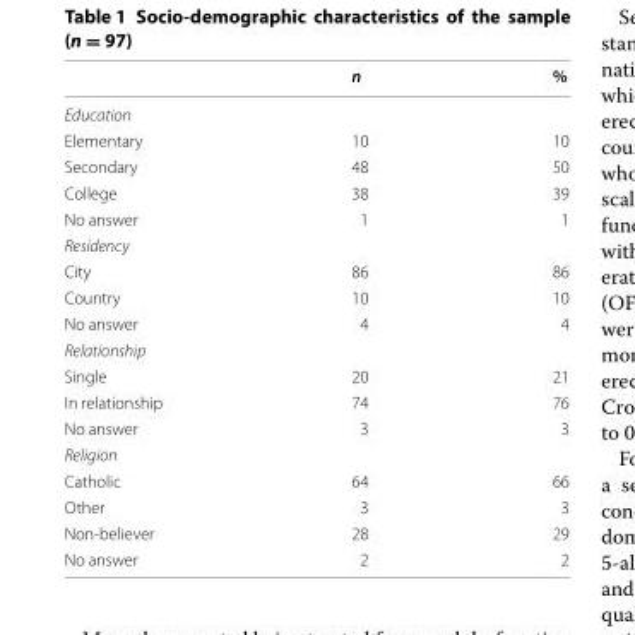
<table><thead><tr><td></td><td>n</td><td>%</td></tr></thead><tbody><tr><td colspan="3">Education</td></tr><tr><td>Elementary</td><td>10</td><td>10</td></tr><tr><td>Secondary</td><td>48</td><td>50</td></tr><tr><td>College</td><td>38</td><td>39</td></tr><tr><td>No answer</td><td>1</td><td>1</td></tr><tr><td colspan="3">Residency</td></tr><tr><td>City</td><td>86</td><td>86</td></tr><tr><td>Country</td><td>10</td><td>10</td></tr><tr><td>No answer</td><td>4</td><td>4</td></tr><tr><td colspan="3">Relationship</td></tr><tr><td>Single</td><td>20</td><td>21</td></tr><tr><td>In relationship</td><td>74</td><td>76</td></tr><tr><td>No answer</td><td>3</td><td>3</td></tr><tr><td colspan="3">Religion</td></tr><tr><td>Catholic</td><td>64</td><td>66</td></tr><tr><td>Other</td><td>3</td><td>3</td></tr><tr><td>Non‑believer</td><td>28</td><td>29</td></tr><tr><td>No answer</td><td>2</td><td>2</td></tr></tbody></table>